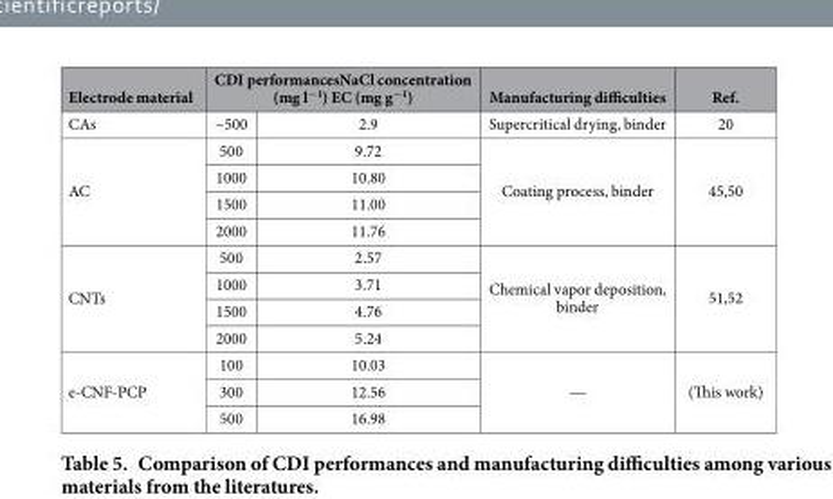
<table><thead><tr><td rowspan="2">Electrode material CAs</td><td colspan="2">CDI performancesNaCl concentration (mg l<sup>−1</sup>) EC (mg g<sup>−1</sup>)</td><td rowspan="2">Manufacturing difficulties Supercritical drying, binder</td><td rowspan="2">Ref. 20</td></tr><tr><td>~500</td><td>2.9</td></tr></thead><tbody><tr><td rowspan="4">AC</td><td>500</td><td>9.72</td><td rowspan="4">Coating process, binder</td><td rowspan="4">45,50</td></tr><tr><td>1000</td><td>10.80</td></tr><tr><td>1500</td><td>11.00</td></tr><tr><td>2000</td><td>11.76</td></tr><tr><td rowspan="4">CNTs</td><td>500</td><td>2.57</td><td rowspan="4">Chemical vapor deposition, binder</td><td rowspan="4">51,52</td></tr><tr><td>1000</td><td>3.71</td></tr><tr><td>1500</td><td>4.76</td></tr><tr><td>2000</td><td>5.24</td></tr><tr><td rowspan="3">e-CNF-PCP</td><td>100</td><td>10.03</td><td rowspan="3">—</td><td rowspan="3">(This work)</td></tr><tr><td>300</td><td>12.56</td></tr><tr><td>500</td><td>16.98</td></tr></tbody></table>